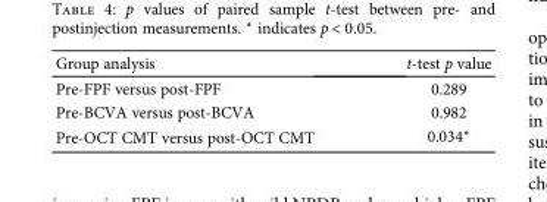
<table><thead><tr><td>Group analysis</td><td>t-test p value</td></tr></thead><tbody><tr><td>Pre-FPF versus post-FPF</td><td>0.289</td></tr><tr><td>Pre-BCVA versus post-BCVA</td><td>0.982</td></tr><tr><td>Pre-OCT CMT versus post-OCT CMT</td><td>0.034∗</td></tr></tbody></table>